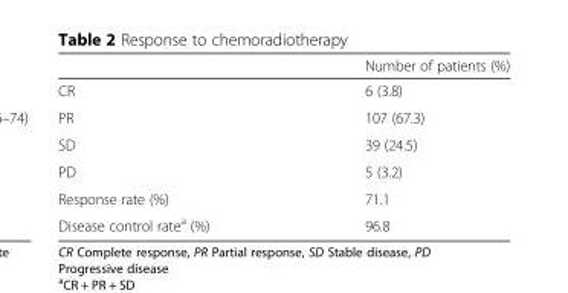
<table><thead><tr><td></td><td>Number of patients (%)</td></tr></thead><tbody><tr><td>CR</td><td>6 (3.8)</td></tr><tr><td>PR</td><td>107 (67.3)</td></tr><tr><td>SD</td><td>39 (24.5)</td></tr><tr><td>PD</td><td>5 (3.2)</td></tr><tr><td>Response rate (%)</td><td>71.1</td></tr><tr><td>Disease control rate<sup>a</sup> (%)</td><td>96.8</td></tr></tbody></table>